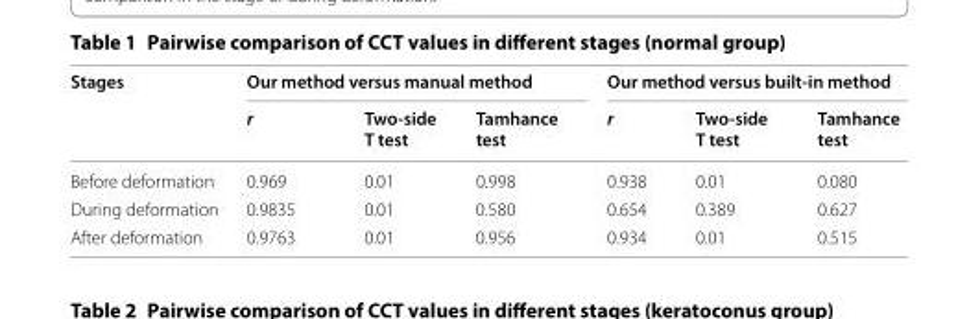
<table><thead><tr><td rowspan="2">Stages</td><td colspan="3">Our method versus manual method</td><td colspan="3">Our method versus built-in method</td></tr><tr><td>r</td><td>Two-side T test</td><td>Tamhance test</td><td>r</td><td>Two-side T test</td><td>Tamhance test</td></tr></thead><tbody><tr><td>Before deformation</td><td>0.969</td><td>0.01</td><td>0.998</td><td>0.938</td><td>0.01</td><td>0.080</td></tr><tr><td>During deformation</td><td>0.9835</td><td>0.01</td><td>0.580</td><td>0.654</td><td>0.389</td><td>0.627</td></tr><tr><td>After deformation</td><td>0.9763</td><td>0.01</td><td>0.956</td><td>0.934</td><td>0.01</td><td>0.515</td></tr></tbody></table>